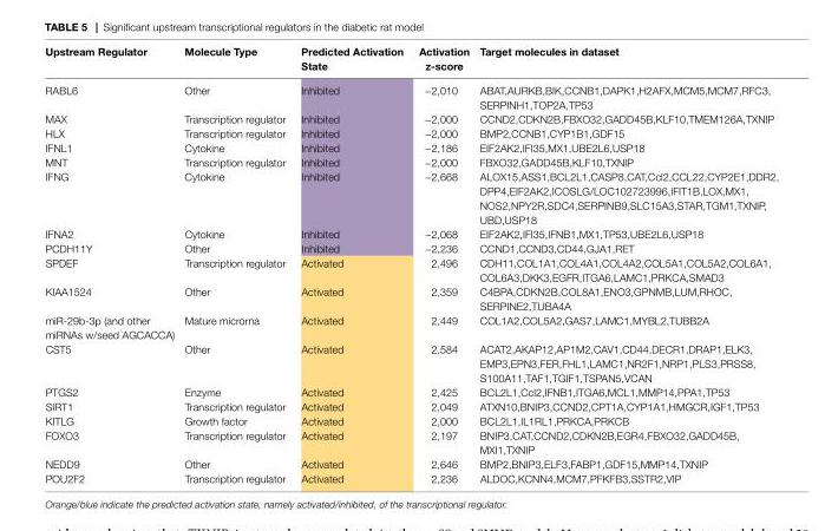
<table><thead><tr><td>upstream regulator</td><td>Molecule Type</td><td>Predicted activation state</td><td>activation z-score</td><td>Target molecules in dataset</td></tr></thead><tbody><tr><td>RABL6</td><td>Other</td><td>Inhibited</td><td>−2,010</td><td>ABAT,AURKB,BIK,CCNB1,DAPK1,H2AFX,MCM5,MCM7,RFC3, SERPINH1,TOP2A,TP53</td></tr><tr><td>MAX</td><td>Transcription regulator</td><td>Inhibited</td><td>−2,000</td><td>CCND2,CDKN2B,FBXO32,GADD45B,KLF10,TMEM126A,TXNIP</td></tr><tr><td>HLX</td><td>Transcription regulator</td><td>Inhibited</td><td>−2,000</td><td>BMP2,CCNB1,CYP1B1,GDF15</td></tr><tr><td>IFNL1</td><td>Cytokine</td><td>Inhibited</td><td>−2,186</td><td>EIF2AK2,IFI35,MX1,UBE2L6,USP18</td></tr><tr><td>MNT</td><td>Transcription regulator</td><td>Inhibited</td><td>−2,000</td><td>FBXO32,GADD45B,KLF10,TXNIP</td></tr><tr><td>IFNG</td><td>Cytokine</td><td>Inhibited</td><td>−2,668</td><td>ALOX15,ASS1,BCL2L1,CASP8,CAT,Ccl2,CCL22,CYP2E1,DDR2, DPP4,EIF2AK2,ICOSLG/LOC102723996,IFIT1B,LOX,MX1, NOS2,NPY2R,SDC4,SERPINB9,SLC15A3,STAR,TGM1,TXNIP, UBD,USP18</td></tr><tr><td>IFNA2</td><td>Cytokine</td><td>Inhibited</td><td>−2,068</td><td>EIF2AK2,IFI35,IFNB1,MX1,TP53,UBE2L6,USP18</td></tr><tr><td>PCDH11Y</td><td>Other</td><td>Inhibited</td><td>−2,236</td><td>CCND1,CCND3,CD44,GJA1,RET</td></tr><tr><td>SPDEF</td><td>Transcription regulator</td><td>Activated</td><td>2,496</td><td>CDH11,COL1A1,COL4A1,COL4A2,COL5A1,COL5A2,COL6A1, COL6A3,DKK3,EGFR,ITGA6,LAMC1,PRKCA,SMAD3</td></tr><tr><td>KIAA1524</td><td>Other</td><td>Activated</td><td>2,359</td><td>C4BPA,CDKN2B,COL8A1,ENO3,GPNMB,LUM,RHOC, SERPINE2,TUBA4A</td></tr><tr><td>miR-29b-3p (and other miRNAs w/seed AGCACCA)</td><td>Mature microrna</td><td>Activated</td><td>2,449</td><td>COL1A2,COL5A2,GAS7,LAMC1,MYBL2,TUBB2A</td></tr><tr><td>CST5</td><td>Other</td><td>Activated</td><td>2,584</td><td>ACAT2,AKAP12,AP1M2,CAV1,CD44,DECR1,DRAP1,ELK3, EMP3,EPN3,FER,FHL1,LAMC1,NR2F1,NRP1,PLS3,PRSS8, S100A11,TAF1,TGIF1,TSPAN5,VCAN</td></tr><tr><td>PTGS2</td><td>Enzyme</td><td>Activated</td><td>2,425</td><td>BCL2L1,Ccl2,IFNB1,ITGA6,MCL1,MMP14,PPA1,TP53</td></tr><tr><td>SIRT1</td><td>Transcription regulator</td><td>Activated</td><td>2,049</td><td>ATXN10,BNIP3,CCND2,CPT1A,CYP1A1,HMGCR,IGF1,TP53</td></tr><tr><td>KITLG</td><td>Growth factor</td><td>Activated</td><td>2,000</td><td>BCL2L1,IL1RL1,PRKCA,PRKCB</td></tr><tr><td>FOXO3</td><td>Transcription regulator</td><td>Activated</td><td>2,197</td><td>BNIP3,CAT,CCND2,CDKN2B,EGR4,FBXO32,GADD45B, MXI1,TXNIP</td></tr><tr><td>NEDD9</td><td>Other</td><td>Activated</td><td>2,646</td><td>BMP2,BNIP3,ELF3,FABP1,GDF15,MMP14,TXNIP</td></tr><tr><td>POU2F2</td><td>Transcription regulator</td><td>Activated</td><td>2,236</td><td>ALDOC,KCNN4,MCM7,PFKFB3,SSTR2,VIP</td></tr></tbody></table>